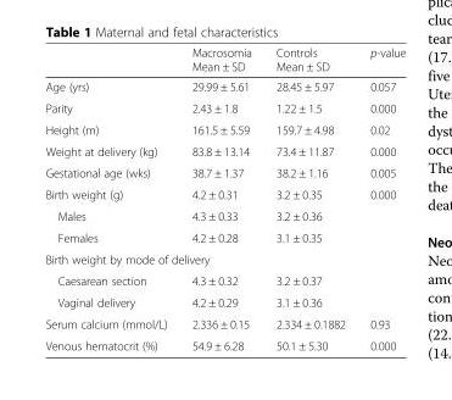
<table><thead><tr><td></td><td>Macrosomia Mean ± SD</td><td>Controls Mean ± SD</td><td>p-value</td></tr></thead><tbody><tr><td>Age (yrs)</td><td>29.99 ± 5.61</td><td>28.45 ± 5.97</td><td>0.057</td></tr><tr><td>Parity</td><td>2.43 ± 1.8</td><td>1.22 ± 1.5</td><td>0.000</td></tr><tr><td>Height (m)</td><td>161.5 ± 5.59</td><td>159.7 ± 4.98</td><td>0.02</td></tr><tr><td>Weight at delivery (kg)</td><td>83.8 ± 13.14</td><td>73.4 ± 11.87</td><td>0.000</td></tr><tr><td>Gestational age (wks)</td><td>38.7 ± 1.37</td><td>38.2 ± 1.16</td><td>0.005</td></tr><tr><td>Birth weight (g)</td><td>4.2 ± 0.31</td><td>3.2 ± 0.35</td><td>0.000</td></tr><tr><td>Males</td><td>4.3 ± 0.33</td><td>3.2 ± 0.36</td><td></td></tr><tr><td>Females</td><td>4.2 ± 0.28</td><td>3.1 ± 0.35</td><td></td></tr><tr><td colspan="4">Birth weight by mode of delivery</td></tr><tr><td>Caesarean section</td><td>4.3 ± 0.32</td><td>3.2 ± 0.37</td><td></td></tr><tr><td>Vaginal delivery</td><td>4.2 ± 0.29</td><td>3.1 ± 0.36</td><td></td></tr><tr><td>Serum calcium (mmol/L)</td><td>2.336 ± 0.15</td><td>2.334 ± 0.1882</td><td>0.93</td></tr><tr><td>Venous hematocrit (%)</td><td>54.9 ± 6.28</td><td>50.1 ± 5.30</td><td>0.000</td></tr></tbody></table>